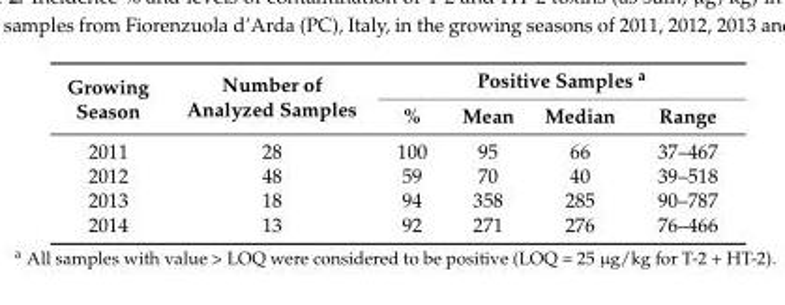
<table><thead><tr><td rowspan="2">Growing Season</td><td rowspan="2">Number of Analyzed Samples</td><td colspan="4">Positive Samples <sup>a</sup></td></tr><tr><td>%</td><td>Mean</td><td>Median</td><td>Range</td></tr></thead><tbody><tr><td>2011</td><td>28</td><td>100</td><td>95</td><td>66</td><td>37–467</td></tr><tr><td>2012</td><td>48</td><td>59</td><td>70</td><td>40</td><td>39–518</td></tr><tr><td>2013</td><td>18</td><td>94</td><td>358</td><td>285</td><td>90–787</td></tr><tr><td>2014</td><td>13</td><td>92</td><td>271</td><td>276</td><td>76–466</td></tr></tbody></table>